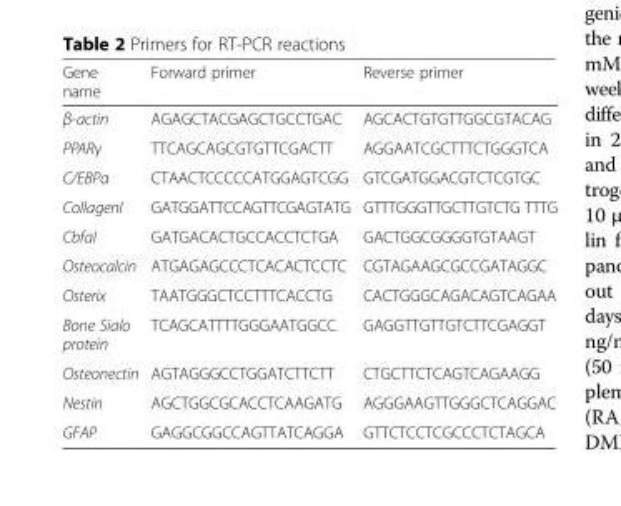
<table><thead><tr><td>Gene name</td><td>Forward primer</td><td>Reverse primer</td></tr></thead><tbody><tr><td>β-actin</td><td>AGAGCTACGAGCTGCCTGAC</td><td>AGCACTGTGTTGGCGTACAG</td></tr><tr><td>PPARγ</td><td>TTCAGCAGCGTGTTCGACTT</td><td>AGGAATCGCTTTCTGGGTCA</td></tr><tr><td>C/EBPα</td><td>CTAACTCCCCCATGGAGTCGG</td><td>GTCGATGGACGTCTCGTGC</td></tr><tr><td>CollagenI</td><td>GATGGATTCCAGTTCGAGTATG</td><td>GTTTGGGTTGCTTGTCTG TTTG</td></tr><tr><td>CbfaI</td><td>GATGACACTGCCACCTCTGA</td><td>GACTGGCGGGGTGTAAGT</td></tr><tr><td>Osteocalcin</td><td>ATGAGAGCCCTCACACTCCTC</td><td>CGTAGAAGCGCCGATAGGC</td></tr><tr><td>Osterix</td><td>TAATGGGCTCCTTTCACCTG</td><td>CACTGGGCAGACAGTCAGAA</td></tr><tr><td>Bone Sialo protein</td><td>TCAGCATTTTGGGAATGGCC</td><td>GAGGTTGTTGTCTTCGAGGT</td></tr><tr><td>Osteonectin</td><td>AGTAGGGCCTGGATCTTCTT</td><td>CTGCTTCTCAGTCAGAAGG</td></tr><tr><td>Nestin</td><td>AGCTGGCGCACCTCAAGATG</td><td>AGGGAAGTTGGGCTCAGGAC</td></tr><tr><td>GFAP</td><td>GAGGCGGCCAGTTATCAGGA</td><td>GTTCTCCTCGCCCTCTAGCA</td></tr></tbody></table>